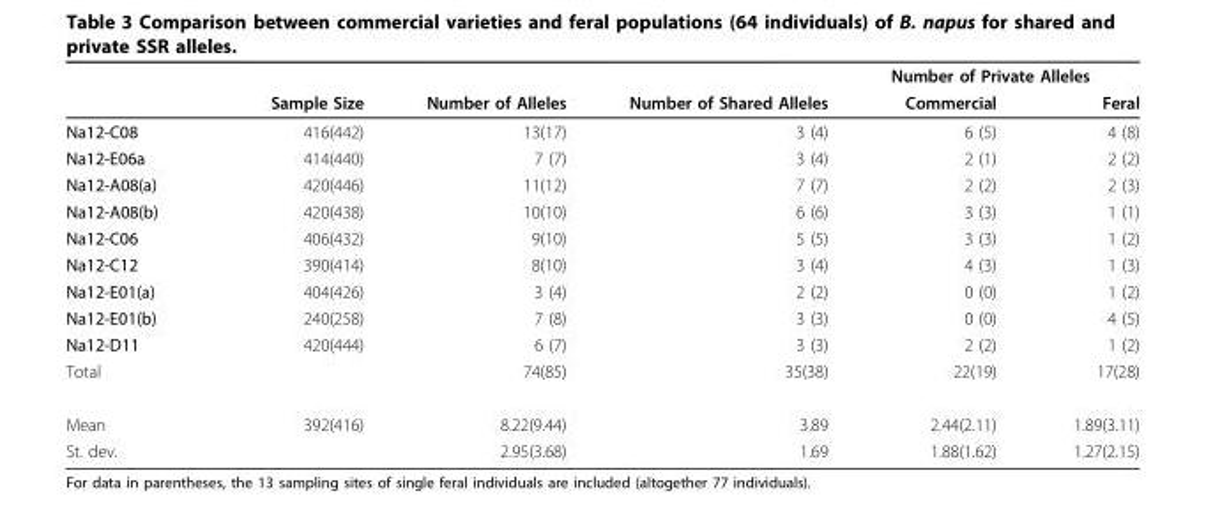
<table><thead><tr><td rowspan="2"></td><td rowspan="2">Sample Size</td><td rowspan="2">Number of Alleles</td><td rowspan="2">Number of Shared Alleles</td><td colspan="2">Number of Private Alleles</td></tr><tr><td>Commercial</td><td>Feral</td></tr></thead><tbody><tr><td>Na12-C08</td><td>416(442)</td><td>13(17)</td><td>3 (4)</td><td>6 (5)</td><td>4 (8)</td></tr><tr><td>Na12-E06a</td><td>414(440)</td><td>7 (7)</td><td>3 (4)</td><td>2 (1)</td><td>2 (2)</td></tr><tr><td>Na12-A08(a)</td><td>420(446)</td><td>11(12)</td><td>7 (7)</td><td>2 (2)</td><td>2 (3)</td></tr><tr><td>Na12-A08(b)</td><td>420(438)</td><td>10(10)</td><td>6 (6)</td><td>3 (3)</td><td>1 (1)</td></tr><tr><td>Na12-C06</td><td>406(432)</td><td>9(10)</td><td>5 (5)</td><td>3 (3)</td><td>1 (2)</td></tr><tr><td>Na12-C12</td><td>390(414)</td><td>8(10)</td><td>3 (4)</td><td>4 (3)</td><td>1 (3)</td></tr><tr><td>Na12-E01(a)</td><td>404(426)</td><td>3 (4)</td><td>2 (2)</td><td>0 (0)</td><td>1 (2)</td></tr><tr><td>Na12-E01(b)</td><td>240(258)</td><td>7 (8)</td><td>3 (3)</td><td>0 (0)</td><td>4 (5)</td></tr><tr><td>Na12-D11</td><td>420(444)</td><td>6 (7)</td><td>3 (3)</td><td>2 (2)</td><td>1 (2)</td></tr><tr><td>Total</td><td></td><td>74(85)</td><td>35(38)</td><td>22(19)</td><td>17(28)</td></tr><tr><td>Mean</td><td>392(416)</td><td>8.22(9.44)</td><td>3.89</td><td>2.44(2.11)</td><td>1.89(3.11)</td></tr><tr><td>St. dev.</td><td></td><td>2.95(3.68)</td><td>1.69</td><td>1.88(1.62)</td><td>1.27(2.15)</td></tr></tbody></table>